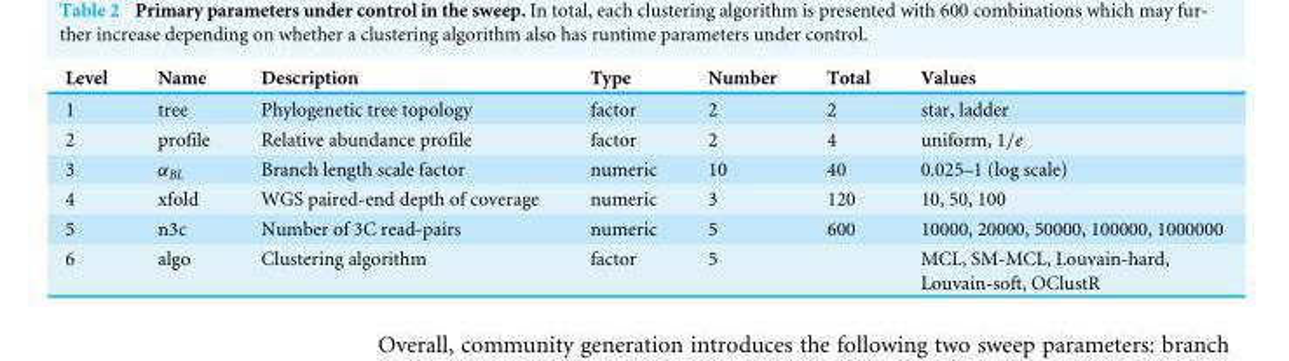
<table><thead><tr><td>Level</td><td>Name</td><td>Description</td><td>Type</td><td>Number</td><td>Total</td><td>Values</td></tr></thead><tbody><tr><td>1</td><td>tree</td><td>Phylogenetic tree topology</td><td>factor</td><td>2</td><td>2</td><td>star, ladder</td></tr><tr><td>2</td><td>profile</td><td>Relative abundance profile</td><td>factor</td><td>2</td><td>4</td><td>uniform, 1/e</td></tr><tr><td>3</td><td>α<sub>BL</sub></td><td>Branch length scale factor</td><td>numeric</td><td>10</td><td>40</td><td>0.025–1 (log scale)</td></tr><tr><td>4</td><td>xfold</td><td>WGS paired-end depth of coverage</td><td>numeric</td><td>3</td><td>120</td><td>10, 50, 100</td></tr><tr><td>5</td><td>n3c</td><td>Number of 3C read-pairs</td><td>numeric</td><td>5</td><td>600</td><td>10000, 20000, 50000, 100000, 1000000</td></tr><tr><td>6</td><td>algo</td><td>Clustering algorithm</td><td>factor</td><td>5</td><td></td><td>MCL, SM-MCL, Louvain-hard, Louvain-soft, OClustR</td></tr></tbody></table>